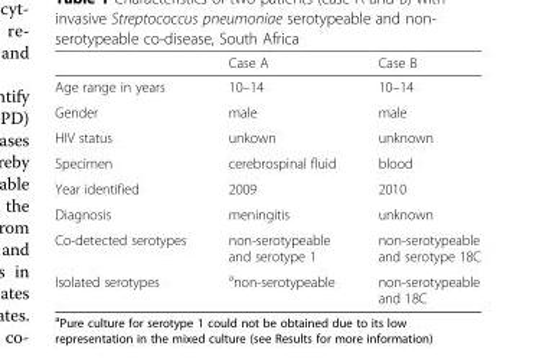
<table><thead><tr><td></td><td>Case A</td><td>Case B</td></tr></thead><tbody><tr><td>Age range in years</td><td>10–14</td><td>10–14</td></tr><tr><td>Gender</td><td>male</td><td>male</td></tr><tr><td>HIV status</td><td>unkown</td><td>unknown</td></tr><tr><td>Specimen</td><td>cerebrospinal fluid</td><td>blood</td></tr><tr><td>Year identified</td><td>2009</td><td>2010</td></tr><tr><td>Diagnosis</td><td>meningitis</td><td>unknown</td></tr><tr><td>Co-detected serotypes</td><td>non-serotypeable and serotype 1</td><td>non-serotypeable and serotype 18C</td></tr><tr><td>Isolated serotypes</td><td><sup>a</sup>non-serotypeable</td><td>non-serotypeable and 18C</td></tr></tbody></table>